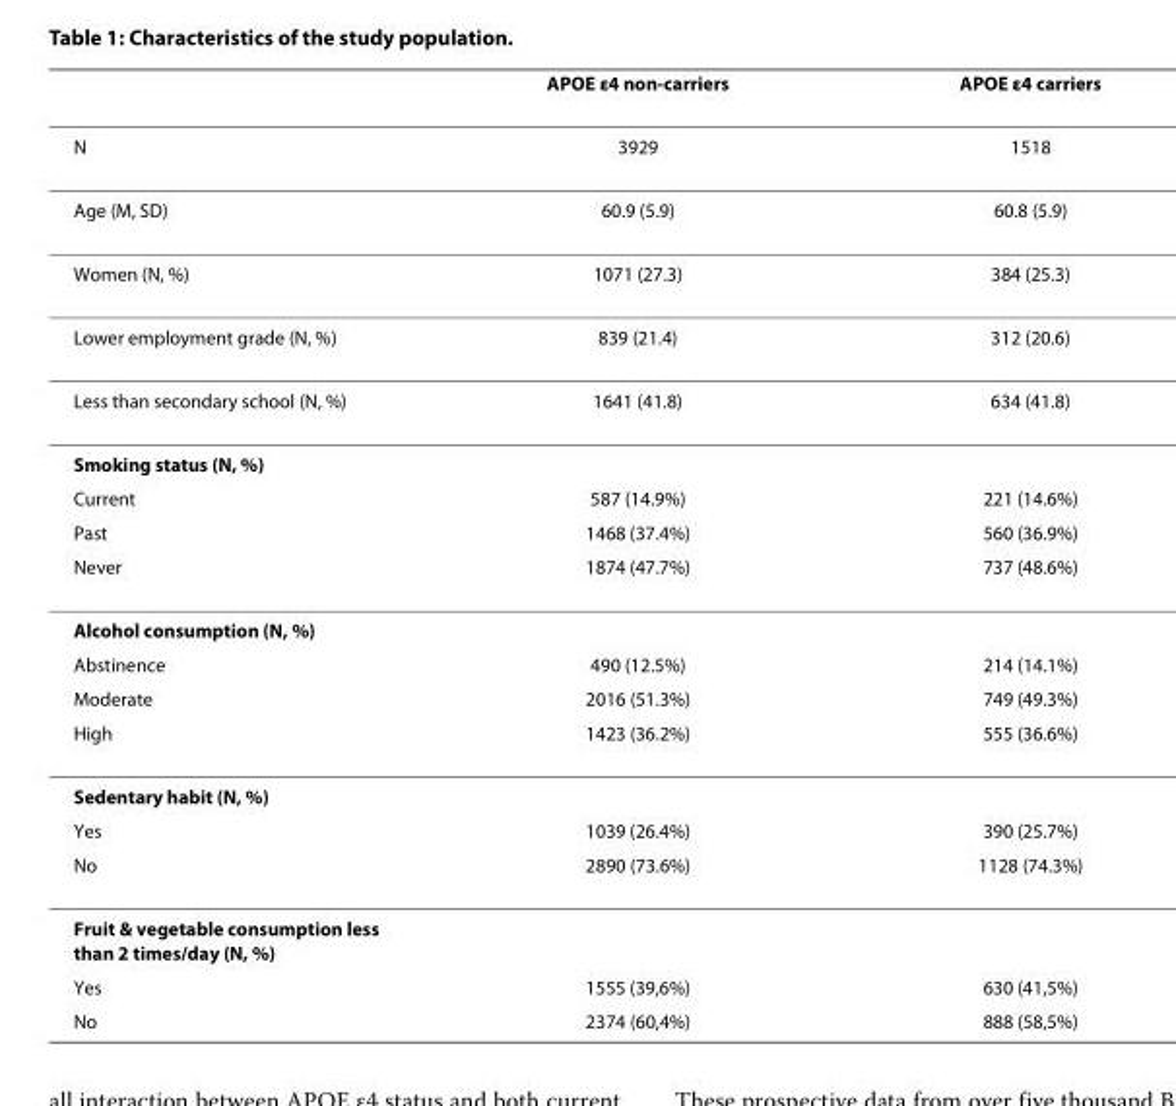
<table><thead><tr><td></td><td>APOE ε4 non-carriers</td><td>APOE ε4 carriers</td></tr></thead><tbody><tr><td>N</td><td>3929</td><td>1518</td></tr><tr><td>Age (M, SD)</td><td>60.9 (5.9)</td><td>60.8 (5.9)</td></tr><tr><td>Women (N, %)</td><td>1071 (27.3)</td><td>384 (25.3)</td></tr><tr><td>Lower employment grade (N, %)</td><td>839 (21.4)</td><td>312 (20.6)</td></tr><tr><td>Less than secondary school (N, %)</td><td>1641 (41.8)</td><td>634 (41.8)</td></tr><tr><td colspan="3">Smoking status (N, %)</td></tr><tr><td>Current</td><td>587 (14.9%)</td><td>221 (14.6%)</td></tr><tr><td>Past</td><td>1468 (37.4%)</td><td>560 (36.9%)</td></tr><tr><td>Never</td><td>1874 (47.7%)</td><td>737 (48.6%)</td></tr><tr><td colspan="3">Alcohol consumption (N, %)</td></tr><tr><td>Abstinence</td><td>490 (12.5%)</td><td>214 (14.1%)</td></tr><tr><td>Moderate</td><td>2016 (51.3%)</td><td>749 (49.3%)</td></tr><tr><td>High</td><td>1423 (36.2%)</td><td>555 (36.6%)</td></tr><tr><td colspan="3">Sedentary habit (N, %)</td></tr><tr><td>Yes</td><td>1039 (26.4%)</td><td>390 (25.7%)</td></tr><tr><td>No</td><td>2890 (73.6%)</td><td>1128 (74.3%)</td></tr><tr><td colspan="3">Fruit &amp; vegetable consumption less than 2 times/day (N, %)</td></tr><tr><td>Yes</td><td>1555 (39,6%)</td><td>630 (41,5%)</td></tr><tr><td>No</td><td>2374 (60,4%)</td><td>888 (58,5%)</td></tr></tbody></table>